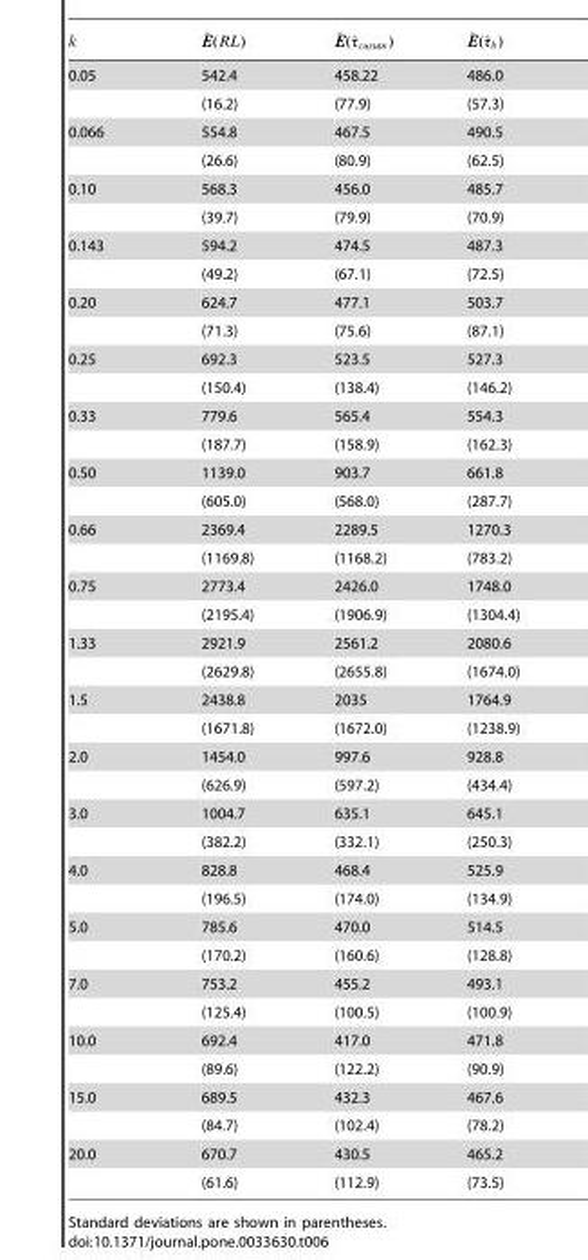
<table><tbody><tr><td rowspan="2">0.05</td><td>542.4</td><td>458.22</td><td>486.0</td></tr><tr><td>(16.2)</td><td>(77.9)</td><td>(57.3)</td></tr><tr><td rowspan="2">0.066</td><td>554.8</td><td>467.5</td><td>490.5</td></tr><tr><td>(26.6)</td><td>(80.9)</td><td>(62.5)</td></tr><tr><td rowspan="2">0.10</td><td>568.3</td><td>456.0</td><td>485.7</td></tr><tr><td>(39.7)</td><td>(79.9)</td><td>(70.9)</td></tr><tr><td rowspan="2">0.143</td><td>594.2</td><td>474.5</td><td>487.3</td></tr><tr><td>(49.2)</td><td>(67.1)</td><td>(72.5)</td></tr><tr><td rowspan="2">0.20</td><td>624.7</td><td>477.1</td><td>503.7</td></tr><tr><td>(71.3)</td><td>(75.6)</td><td>(87.1)</td></tr><tr><td rowspan="2">0.25</td><td>692.3</td><td>523.5</td><td>527.3</td></tr><tr><td>(150.4)</td><td>(138.4)</td><td>(146.2)</td></tr><tr><td rowspan="2">0.33</td><td>779.6</td><td>565.4</td><td>554.3</td></tr><tr><td>(187.7)</td><td>(158.9)</td><td>(162.3)</td></tr><tr><td rowspan="2">0.50</td><td>1139.0</td><td>903.7</td><td>661.8</td></tr><tr><td>(605.0)</td><td>(568.0)</td><td>(287.7)</td></tr><tr><td rowspan="2">0.66</td><td>2369.4</td><td>2289.5</td><td>1270.3</td></tr><tr><td>(1169.8)</td><td>(1168.2)</td><td>(783.2)</td></tr><tr><td rowspan="2">0.75</td><td>2773.4</td><td>2426.0</td><td>1748.0</td></tr><tr><td>(2195.4)</td><td>(1906.9)</td><td>(1304.4)</td></tr><tr><td rowspan="2">1.33</td><td>2921.9</td><td>2561.2</td><td>2080.6</td></tr><tr><td>(2629.8)</td><td>(2655.8)</td><td>(1674.0)</td></tr><tr><td rowspan="2">1.5</td><td>2438.8</td><td>2035</td><td>1764.9</td></tr><tr><td>(1671.8)</td><td>(1672.0)</td><td>(1238.9)</td></tr><tr><td rowspan="2">2.0</td><td>1454.0</td><td>997.6</td><td>928.8</td></tr><tr><td>(626.9)</td><td>(597.2)</td><td>(434.4)</td></tr><tr><td rowspan="2">3.0</td><td>1004.7</td><td>635.1</td><td>645.1</td></tr><tr><td>(382.2)</td><td>(332.1)</td><td>(250.3)</td></tr><tr><td rowspan="2">4.0</td><td>828.8</td><td>468.4</td><td>525.9</td></tr><tr><td>(196.5)</td><td>(174.0)</td><td>(134.9)</td></tr><tr><td rowspan="2">5.0</td><td>785.6</td><td>470.0</td><td>514.5</td></tr><tr><td>(170.2)</td><td>(160.6)</td><td>(128.8)</td></tr><tr><td rowspan="2">7.0</td><td>753.2</td><td>455.2</td><td>493.1</td></tr><tr><td>(125.4)</td><td>(100.5)</td><td>(100.9)</td></tr><tr><td rowspan="2">10.0</td><td>692.4</td><td>417.0</td><td>471.8</td></tr><tr><td>(89.6)</td><td>(122.2)</td><td>(90.9)</td></tr><tr><td rowspan="2">15.0</td><td>689.5</td><td>432.3</td><td>467.6</td></tr><tr><td>(84.7)</td><td>(102.4)</td><td>(78.2)</td></tr><tr><td rowspan="2">20.0</td><td>670.7</td><td>430.5</td><td>465.2</td></tr><tr><td>(61.6)</td><td>(112.9)</td><td>(73.5)</td></tr></tbody></table>